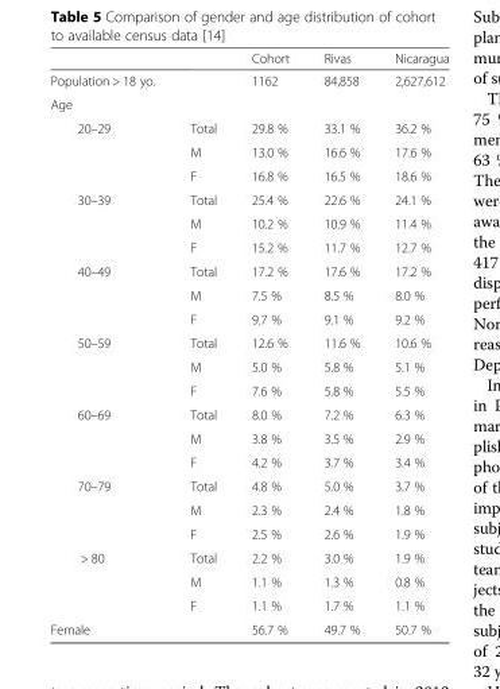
<table><thead><tr><td></td><td></td><td>Cohort</td><td>Rivas</td><td>Nicaragua</td></tr></thead><tbody><tr><td>Population &gt; 18 yo.</td><td></td><td>1162</td><td>84,858</td><td>2,627,612</td></tr><tr><td colspan="5">Age</td></tr><tr><td rowspan="3">20–29</td><td>Total</td><td>29.8 %</td><td>33.1 %</td><td>36.2 %</td></tr><tr><td>M</td><td>13.0 %</td><td>16.6 %</td><td>17.6 %</td></tr><tr><td>F</td><td>16.8 %</td><td>16.5 %</td><td>18.6 %</td></tr><tr><td rowspan="3">30–39</td><td>Total</td><td>25.4 %</td><td>22.6 %</td><td>24.1 %</td></tr><tr><td>M</td><td>10.2 %</td><td>10.9 %</td><td>11.4 %</td></tr><tr><td>F</td><td>15.2 %</td><td>11.7 %</td><td>12.7 %</td></tr><tr><td rowspan="3">40–49</td><td>Total</td><td>17.2 %</td><td>17.6 %</td><td>17.2 %</td></tr><tr><td>M</td><td>7.5 %</td><td>8.5 %</td><td>8.0 %</td></tr><tr><td>F</td><td>9.7 %</td><td>9.1 %</td><td>9.2 %</td></tr><tr><td rowspan="3">50–59</td><td>Total</td><td>12.6 %</td><td>11.6 %</td><td>10.6 %</td></tr><tr><td>M</td><td>5.0 %</td><td>5.8 %</td><td>5.1 %</td></tr><tr><td>F</td><td>7.6 %</td><td>5.8 %</td><td>5.5 %</td></tr><tr><td rowspan="3">60–69</td><td>Total</td><td>8.0 %</td><td>7.2 %</td><td>6.3 %</td></tr><tr><td>M</td><td>3.8 %</td><td>3.5 %</td><td>2.9 %</td></tr><tr><td>F</td><td>4.2 %</td><td>3.7 %</td><td>3.4 %</td></tr><tr><td rowspan="3">70–79</td><td>Total</td><td>4.8 %</td><td>5.0 %</td><td>3.7 %</td></tr><tr><td>M</td><td>2.3 %</td><td>2.4 %</td><td>1.8 %</td></tr><tr><td>F</td><td>2.5 %</td><td>2.6 %</td><td>1.9 %</td></tr><tr><td rowspan="3">&gt; 80</td><td>Total</td><td>2.2 %</td><td>3.0 %</td><td>1.9 %</td></tr><tr><td>M</td><td>1.1 %</td><td>1.3 %</td><td>0.8 %</td></tr><tr><td>F</td><td>1.1 %</td><td>1.7 %</td><td>1.1 %</td></tr><tr><td colspan="2">Female</td><td>56.7 %</td><td>49.7 %</td><td>50.7 %</td></tr></tbody></table>